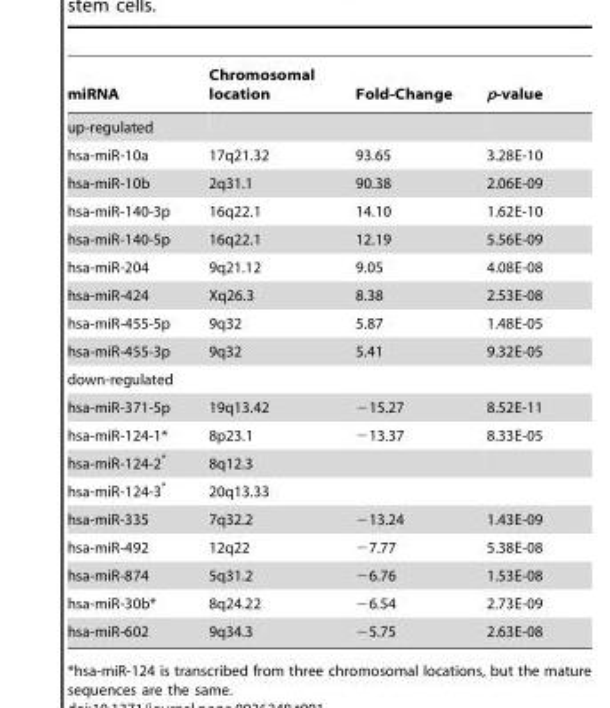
<table><thead><tr><td>miRNA</td><td>Chromosomal location</td><td>Fold-Change</td><td>p-value</td></tr></thead><tbody><tr><td colspan="4">up-regulated</td></tr><tr><td>hsa-miR-10a</td><td>17q21.32</td><td>93.65</td><td>3.28E-10</td></tr><tr><td>hsa-miR-10b</td><td>2q31.1</td><td>90.38</td><td>2.06E-09</td></tr><tr><td>hsa-miR-140-3p</td><td>16q22.1</td><td>14.10</td><td>1.62E-10</td></tr><tr><td>hsa-miR-140-5p</td><td>16q22.1</td><td>12.19</td><td>5.56E-09</td></tr><tr><td>hsa-miR-204</td><td>9q21.12</td><td>9.05</td><td>4.08E-08</td></tr><tr><td>hsa-miR-424</td><td>Xq26.3</td><td>8.38</td><td>2.53E-08</td></tr><tr><td>hsa-miR-455-5p</td><td>9q32</td><td>5.87</td><td>1.48E-05</td></tr><tr><td>hsa-miR-455-3p</td><td>9q32</td><td>5.41</td><td>9.32E-05</td></tr><tr><td colspan="4">down-regulated</td></tr><tr><td>hsa-miR-371-5p</td><td>19q13.42</td><td>−15.27</td><td>8.52E-11</td></tr><tr><td>hsa-miR-124-1*</td><td>8p23.1</td><td>−13.37</td><td>8.33E-05</td></tr><tr><td>hsa-miR-124-2*</td><td>8q12.3</td><td></td><td></td></tr><tr><td>hsa-miR-124-3*</td><td>20q13.33</td><td></td><td></td></tr><tr><td>hsa-miR-335</td><td>7q32.2</td><td>−13.24</td><td>1.43E-09</td></tr><tr><td>hsa-miR-492</td><td>12q22</td><td>−7.77</td><td>5.38E-08</td></tr><tr><td>hsa-miR-874</td><td>5q31.2</td><td>−6.76</td><td>1.53E-08</td></tr><tr><td>hsa-miR-30b*</td><td>8q24.22</td><td>−6.54</td><td>2.73E-09</td></tr><tr><td>hsa-miR-602</td><td>9q34.3</td><td>−5.75</td><td>2.63E-08</td></tr></tbody></table>